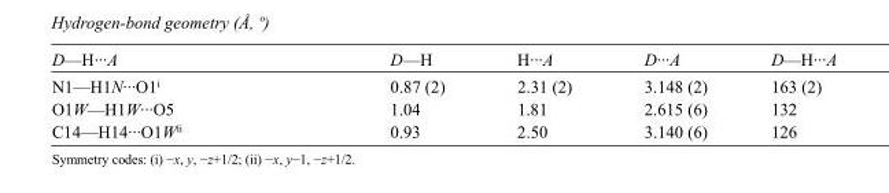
<table><tbody><tr><td>D—H···A</td><td>D—H</td><td>H···A</td><td>D···A</td><td>D—H···A</td></tr><tr><td>N1—H1N···O1<sup>i</sup></td><td>0.87 (2)</td><td>2.31 (2)</td><td>3.148 (2)</td><td>163 (2)</td></tr><tr><td>O1W—H1W···O5</td><td>1.04</td><td>1.81</td><td>2.615 (6)</td><td>132</td></tr><tr><td>C14—H14···O1W<sup>ii</sup></td><td>0.93</td><td>2.50</td><td>3.140 (6)</td><td>126</td></tr></tbody></table>